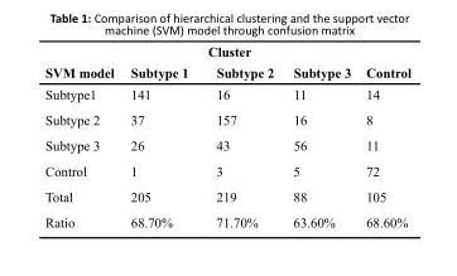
<table><thead><tr><td colspan="5">Cluster</td></tr><tr><td>SVM model</td><td>Subtype 1</td><td>Subtype 2</td><td>Subtype 3</td><td>Control</td></tr></thead><tbody><tr><td>Subtype1</td><td>141</td><td>16</td><td>11</td><td>14</td></tr><tr><td>Subtype 2</td><td>37</td><td>157</td><td>16</td><td>8</td></tr><tr><td>Subtype 3</td><td>26</td><td>43</td><td>56</td><td>11</td></tr><tr><td>Control</td><td>1</td><td>3</td><td>5</td><td>72</td></tr><tr><td>Total</td><td>205</td><td>219</td><td>88</td><td>105</td></tr><tr><td>Ratio</td><td>68.70%</td><td>71.70%</td><td>63.60%</td><td>68.60%</td></tr></tbody></table>